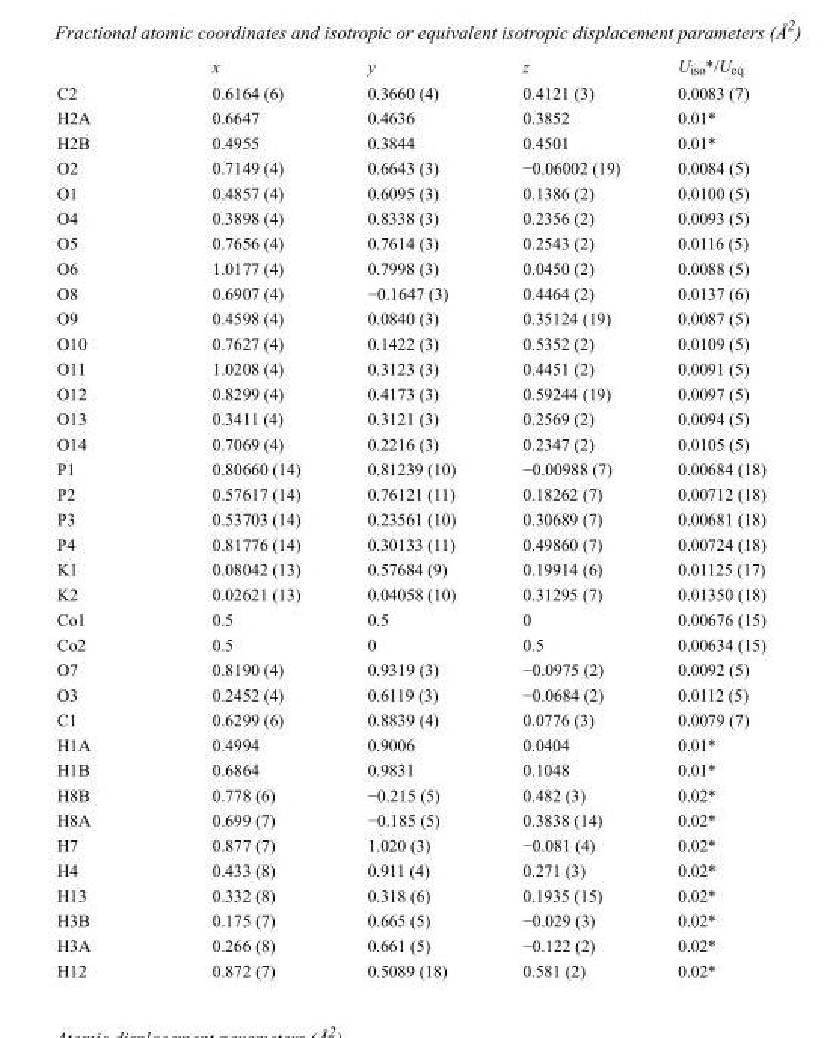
<table><thead><tr><td></td><td>x</td><td>y</td><td>z</td><td>U<sub>iso</sub>*/U<sub>eq</sub></td></tr></thead><tbody><tr><td>C2</td><td>0.6164 (6)</td><td>0.3660 (4)</td><td>0.4121 (3)</td><td>0.0083 (7)</td></tr><tr><td>H2A</td><td>0.6647</td><td>0.4636</td><td>0.3852</td><td>0.01*</td></tr><tr><td>H2B</td><td>0.4955</td><td>0.3844</td><td>0.4501</td><td>0.01*</td></tr><tr><td>O2</td><td>0.7149 (4)</td><td>0.6643 (3)</td><td>−0.06002 (19)</td><td>0.0084 (5)</td></tr><tr><td>O1</td><td>0.4857 (4)</td><td>0.6095 (3)</td><td>0.1386 (2)</td><td>0.0100 (5)</td></tr><tr><td>O4</td><td>0.3898 (4)</td><td>0.8338 (3)</td><td>0.2356 (2)</td><td>0.0093 (5)</td></tr><tr><td>O5</td><td>0.7656 (4)</td><td>0.7614 (3)</td><td>0.2543 (2)</td><td>0.0116 (5)</td></tr><tr><td>O6</td><td>1.0177 (4)</td><td>0.7998 (3)</td><td>0.0450 (2)</td><td>0.0088 (5)</td></tr><tr><td>O8</td><td>0.6907 (4)</td><td>−0.1647 (3)</td><td>0.4464 (2)</td><td>0.0137 (6)</td></tr><tr><td>O9</td><td>0.4598 (4)</td><td>0.0840 (3)</td><td>0.35124 (19)</td><td>0.0087 (5)</td></tr><tr><td>O10</td><td>0.7627 (4)</td><td>0.1422 (3)</td><td>0.5352 (2)</td><td>0.0109 (5)</td></tr><tr><td>O11</td><td>1.0208 (4)</td><td>0.3123 (3)</td><td>0.4451 (2)</td><td>0.0091 (5)</td></tr><tr><td>O12</td><td>0.8299 (4)</td><td>0.4173 (3)</td><td>0.59244 (19)</td><td>0.0097 (5)</td></tr><tr><td>O13</td><td>0.3411 (4)</td><td>0.3121 (3)</td><td>0.2569 (2)</td><td>0.0094 (5)</td></tr><tr><td>O14</td><td>0.7069 (4)</td><td>0.2216 (3)</td><td>0.2347 (2)</td><td>0.0105 (5)</td></tr><tr><td>P1</td><td>0.80660 (14)</td><td>0.81239 (10)</td><td>−0.00988 (7)</td><td>0.00684 (18)</td></tr><tr><td>P2</td><td>0.57617 (14)</td><td>0.76121 (11)</td><td>0.18262 (7)</td><td>0.00712 (18)</td></tr><tr><td>P3</td><td>0.53703 (14)</td><td>0.23561 (10)</td><td>0.30689 (7)</td><td>0.00681 (18)</td></tr><tr><td>P4</td><td>0.81776 (14)</td><td>0.30133 (11)</td><td>0.49860 (7)</td><td>0.00724 (18)</td></tr><tr><td>K1</td><td>0.08042 (13)</td><td>0.57684 (9)</td><td>0.19914 (6)</td><td>0.01125 (17)</td></tr><tr><td>K2</td><td>0.02621 (13)</td><td>0.04058 (10)</td><td>0.31295 (7)</td><td>0.01350 (18)</td></tr><tr><td>Co1</td><td>0.5</td><td>0.5</td><td>0</td><td>0.00676 (15)</td></tr><tr><td>Co2</td><td>0.5</td><td>0</td><td>0.5</td><td>0.00634 (15)</td></tr><tr><td>O7</td><td>0.8190 (4)</td><td>0.9319 (3)</td><td>−0.0975 (2)</td><td>0.0092 (5)</td></tr><tr><td>O3</td><td>0.2452 (4)</td><td>0.6119 (3)</td><td>−0.0684 (2)</td><td>0.0112 (5)</td></tr><tr><td>C1</td><td>0.6299 (6)</td><td>0.8839 (4)</td><td>0.0776 (3)</td><td>0.0079 (7)</td></tr><tr><td>H1A</td><td>0.4994</td><td>0.9006</td><td>0.0404</td><td>0.01*</td></tr><tr><td>H1B</td><td>0.6864</td><td>0.9831</td><td>0.1048</td><td>0.01*</td></tr><tr><td>H8B</td><td>0.778 (6)</td><td>−0.215 (5)</td><td>0.482 (3)</td><td>0.02*</td></tr><tr><td>H8A</td><td>0.699 (7)</td><td>−0.185 (5)</td><td>0.3838 (14)</td><td>0.02*</td></tr><tr><td>H7</td><td>0.877 (7)</td><td>1.020 (3)</td><td>−0.081 (4)</td><td>0.02*</td></tr><tr><td>H4</td><td>0.433 (8)</td><td>0.911 (4)</td><td>0.271 (3)</td><td>0.02*</td></tr><tr><td>H13</td><td>0.332 (8)</td><td>0.318 (6)</td><td>0.1935 (15)</td><td>0.02*</td></tr><tr><td>H3B</td><td>0.175 (7)</td><td>0.665 (5)</td><td>−0.029 (3)</td><td>0.02*</td></tr><tr><td>H3A</td><td>0.266 (8)</td><td>0.661 (5)</td><td>−0.122 (2)</td><td>0.02*</td></tr><tr><td>H12</td><td>0.872 (7)</td><td>0.5089 (18)</td><td>0.581 (2)</td><td>0.02*</td></tr></tbody></table>